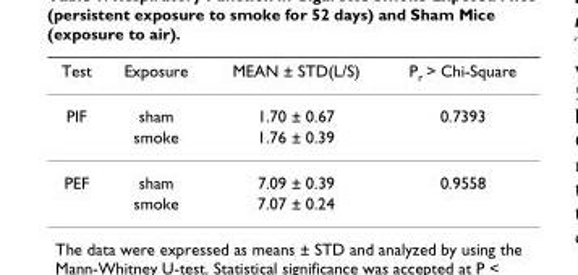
<table><thead><tr><td>Test</td><td>Exposure</td><td>MEAN ± STD(L/S)</td><td>P<sub>r</sub> &gt; Chi-Square</td></tr></thead><tbody><tr><td rowspan="2">PIF</td><td>sham</td><td>1.70 ± 0.67</td><td>0.7393</td></tr><tr><td>smoke</td><td>1.76 ± 0.39</td><td></td></tr><tr><td rowspan="2">PEF</td><td>sham</td><td>7.09 ± 0.39</td><td>0.9558</td></tr><tr><td>smoke</td><td>7.07 ± 0.24</td><td></td></tr></tbody></table>